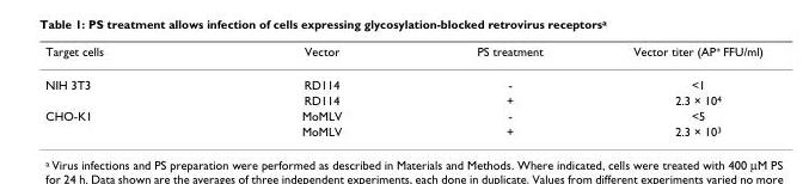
<table><thead><tr><td>Target cells</td><td>Vector</td><td>PS treatment</td><td>Vector titer (AP<sup>+</sup> FFU/ml)</td></tr></thead><tbody><tr><td rowspan="2">NIH 3T3</td><td>RD114</td><td>-</td><td>&lt;1</td></tr><tr><td>RD114</td><td>+</td><td>2.3 × 10<sup>4</sup></td></tr><tr><td rowspan="2">CHO-K1</td><td>MoMLV</td><td>-</td><td>&lt;5</td></tr><tr><td>MoMLV</td><td>+</td><td>2.3 × 10<sup>3</sup></td></tr></tbody></table>